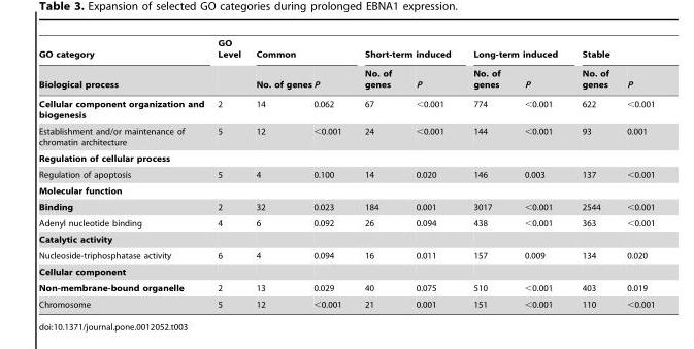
<table><thead><tr><td rowspan="2">GO category Biological process</td><td rowspan="2">GO Level</td><td colspan="2">Common</td><td colspan="2">Short-term induced</td><td colspan="2">Long-term induced</td><td colspan="2">Stable</td></tr><tr><td>No. of genes</td><td>P</td><td>No. of genes</td><td>P</td><td>No. of genes</td><td>P</td><td>No. of genes</td><td>P</td></tr></thead><tbody><tr><td>Cellular component organization and biogenesis</td><td>2</td><td>14</td><td>0.062</td><td>67</td><td>&lt;0.001</td><td>774</td><td>&lt;0.001</td><td>622</td><td>&lt;0.001</td></tr><tr><td>Establishment and/or maintenance of chromatin architecture</td><td>5</td><td>12</td><td>&lt;0.001</td><td>24</td><td>&lt;0.001</td><td>144</td><td>&lt;0.001</td><td>93</td><td>0.001</td></tr><tr><td colspan="10">Regulation of cellular process</td></tr><tr><td>Regulation of apoptosis</td><td>5</td><td>4</td><td>0.100</td><td>14</td><td>0.020</td><td>146</td><td>0.003</td><td>137</td><td>&lt;0.001</td></tr><tr><td colspan="10">Molecular function</td></tr><tr><td>Binding</td><td>2</td><td>32</td><td>0.023</td><td>184</td><td>0.001</td><td>3017</td><td>&lt;0.001</td><td>2544</td><td>&lt;0.001</td></tr><tr><td>Adenyl nucleotide binding</td><td>4</td><td>6</td><td>0.092</td><td>26</td><td>0.094</td><td>438</td><td>&lt;0.001</td><td>363</td><td>&lt;0.001</td></tr><tr><td colspan="10">Catalytic activity</td></tr><tr><td>Nucleoside-triphosphatase activity</td><td>6</td><td>4</td><td>0.094</td><td>16</td><td>0.011</td><td>157</td><td>0.009</td><td>134</td><td>0.020</td></tr><tr><td colspan="10">Cellular component</td></tr><tr><td>Non-membrane-bound organelle</td><td>2</td><td>13</td><td>0.029</td><td>40</td><td>0.075</td><td>510</td><td>&lt;0.001</td><td>403</td><td>0.019</td></tr><tr><td>Chromosome</td><td>5</td><td>12</td><td>&lt;0.001</td><td>21</td><td>0.001</td><td>151</td><td>&lt;0.001</td><td>110</td><td>&lt;0.001</td></tr></tbody></table>